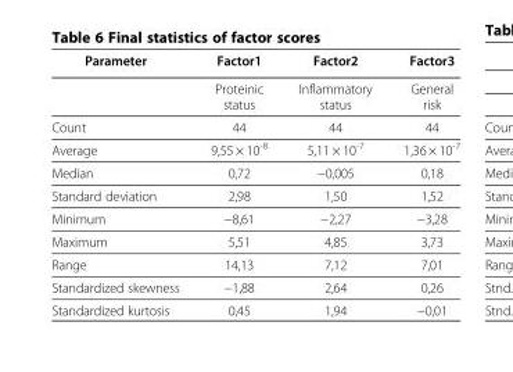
<table><thead><tr><td>Parameter</td><td>Factor1</td><td>Factor2</td><td>Factor3</td></tr></thead><tbody><tr><td></td><td>Proteinic status</td><td>Inflammatory status</td><td>General risk</td></tr><tr><td>Count</td><td>44</td><td>44</td><td>44</td></tr><tr><td>Average</td><td>9,55 × 10<sup>-8</sup></td><td>5,11 × 10<sup>-7</sup></td><td>1,36 × 10<sup>-7</sup></td></tr><tr><td>Median</td><td>0,72</td><td>−0,005</td><td>0,18</td></tr><tr><td>Standard deviation</td><td>2,98</td><td>1,50</td><td>1,52</td></tr><tr><td>Minimum</td><td>−8,61</td><td>−2,27</td><td>−3,28</td></tr><tr><td>Maximum</td><td>5,51</td><td>4,85</td><td>3,73</td></tr><tr><td>Range</td><td>14,13</td><td>7,12</td><td>7,01</td></tr><tr><td>Standardized skewness</td><td>−1,88</td><td>2,64</td><td>0,26</td></tr><tr><td>Standardized kurtosis</td><td>0,45</td><td>1,94</td><td>−0,01</td></tr></tbody></table>